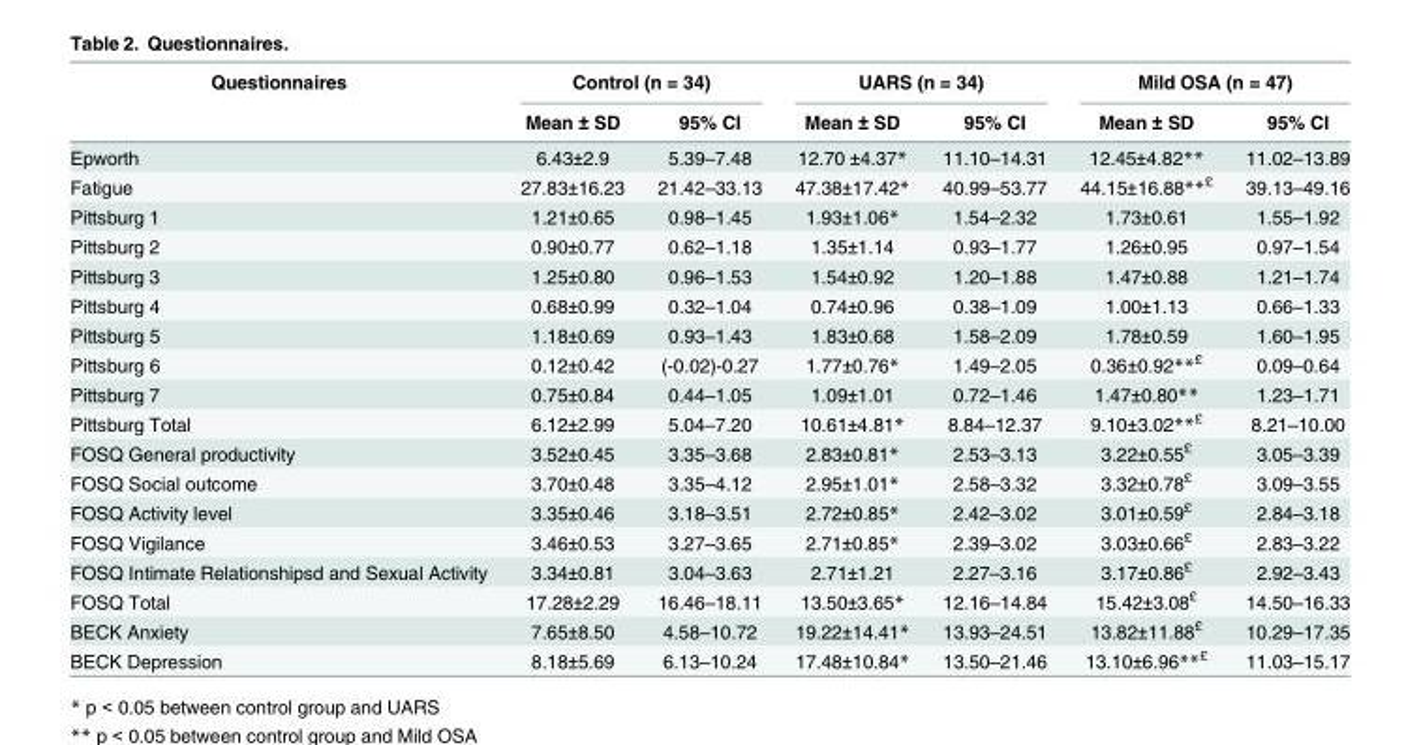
<table><thead><tr><td rowspan="2">Questionnaires</td><td colspan="2">Control (n = 34)</td><td colspan="2">UARS (n = 34)</td><td colspan="2">Mild OSA (n = 47)</td></tr><tr><td>Mean ± SD</td><td>95% CI</td><td>Mean ± SD</td><td>95% CI</td><td>Mean ± SD</td><td>95% CI</td></tr></thead><tbody><tr><td>Epworth</td><td>6.43±2.9</td><td>5.39–7.48</td><td>12.70 ±4.37*</td><td>11.10–14.31</td><td>12.45±4.82**</td><td>11.02–13.89</td></tr><tr><td>Fatigue</td><td>27.83±16.23</td><td>21.42–33.13</td><td>47.38±17.42*</td><td>40.99–53.77</td><td>44.15±16.88**<sup>£</sup></td><td>39.13–49.16</td></tr><tr><td>Pittsburg 1</td><td>1.21±0.65</td><td>0.98–1.45</td><td>1.93±1.06*</td><td>1.54–2.32</td><td>1.73±0.61</td><td>1.55–1.92</td></tr><tr><td>Pittsburg 2</td><td>0.90±0.77</td><td>0.62–1.18</td><td>1.35±1.14</td><td>0.93–1.77</td><td>1.26±0.95</td><td>0.97–1.54</td></tr><tr><td>Pittsburg 3</td><td>1.25±0.80</td><td>0.96–1.53</td><td>1.54±0.92</td><td>1.20–1.88</td><td>1.47±0.88</td><td>1.21–1.74</td></tr><tr><td>Pittsburg 4</td><td>0.68±0.99</td><td>0.32–1.04</td><td>0.74±0.96</td><td>0.38–1.09</td><td>1.00±1.13</td><td>0.66–1.33</td></tr><tr><td>Pittsburg 5</td><td>1.18±0.69</td><td>0.93–1.43</td><td>1.83±0.68</td><td>1.58–2.09</td><td>1.78±0.59</td><td>1.60–1.95</td></tr><tr><td>Pittsburg 6</td><td>0.12±0.42</td><td>(-0.02)-0.27</td><td>1.77±0.76*</td><td>1.49–2.05</td><td>0.36±0.92**<sup>£</sup></td><td>0.09–0.64</td></tr><tr><td>Pittsburg 7</td><td>0.75±0.84</td><td>0.44–1.05</td><td>1.09±1.01</td><td>0.72–1.46</td><td>1.47±0.80**</td><td>1.23–1.71</td></tr><tr><td>Pittsburg Total</td><td>6.12±2.99</td><td>5.04–7.20</td><td>10.61±4.81*</td><td>8.84–12.37</td><td>9.10±3.02**<sup>£</sup></td><td>8.21–10.00</td></tr><tr><td>FOSQ General productivity</td><td>3.52±0.45</td><td>3.35–3.68</td><td>2.83±0.81*</td><td>2.53–3.13</td><td>3.22±0.55<sup>£</sup></td><td>3.05–3.39</td></tr><tr><td>FOSQ Social outcome</td><td>3.70±0.48</td><td>3.35–4.12</td><td>2.95±1.01*</td><td>2.58–3.32</td><td>3.32±0.78<sup>£</sup></td><td>3.09–3.55</td></tr><tr><td>FOSQ Activity level</td><td>3.35±0.46</td><td>3.18–3.51</td><td>2.72±0.85*</td><td>2.42–3.02</td><td>3.01±0.59<sup>£</sup></td><td>2.84–3.18</td></tr><tr><td>FOSQ Vigilance</td><td>3.46±0.53</td><td>3.27–3.65</td><td>2.71±0.85*</td><td>2.39–3.02</td><td>3.03±0.66<sup>£</sup></td><td>2.83–3.22</td></tr><tr><td>FOSQ Intimate Relationshipsd and Sexual Activity</td><td>3.34±0.81</td><td>3.04–3.63</td><td>2.71±1.21</td><td>2.27–3.16</td><td>3.17±0.86<sup>£</sup></td><td>2.92–3.43</td></tr><tr><td>FOSQ Total</td><td>17.28±2.29</td><td>16.46–18.11</td><td>13.50±3.65*</td><td>12.16–14.84</td><td>15.42±3.08<sup>£</sup></td><td>14.50–16.33</td></tr><tr><td>BECK Anxiety</td><td>7.65±8.50</td><td>4.58–10.72</td><td>19.22±14.41*</td><td>13.93–24.51</td><td>13.82±11.88<sup>£</sup></td><td>10.29–17.35</td></tr><tr><td>BECK Depression</td><td>8.18±5.69</td><td>6.13–10.24</td><td>17.48±10.84*</td><td>13.50–21.46</td><td>13.10±6.96**<sup>£</sup></td><td>11.03–15.17</td></tr></tbody></table>